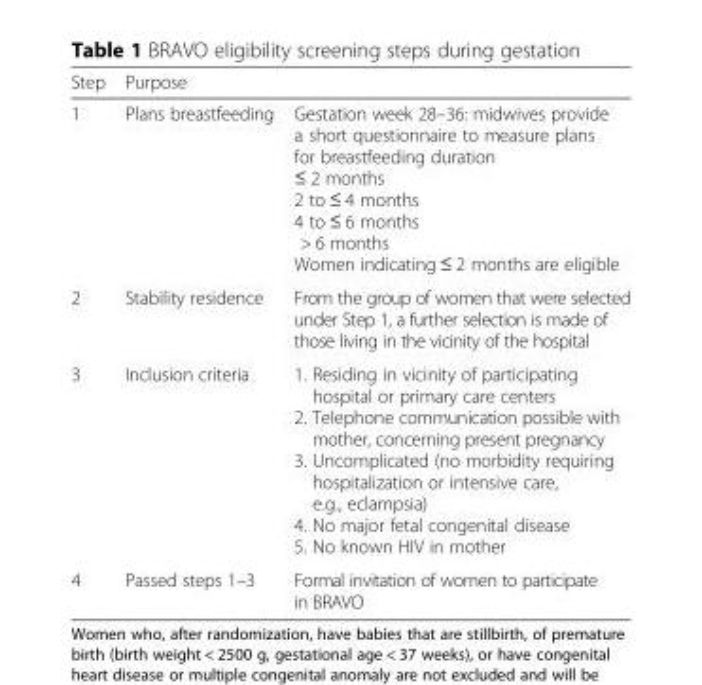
<table><thead><tr><td>Step</td><td>Purpose</td><td></td></tr></thead><tbody><tr><td>1</td><td>Plans breastfeeding</td><td>Gestation week 28–36: midwives provide a short questionnaire to measure plans for breastfeeding duration ≤ 2 months 2 to ≤ 4 months 4 to ≤ 6 months &gt; 6 months Women indicating ≤ 2 months are eligible</td></tr><tr><td>2</td><td>Stability residence</td><td>From the group of women that were selected under Step 1, a further selection is made of those living in the vicinity of the hospital</td></tr><tr><td>3</td><td>Inclusion criteria</td><td>1. Residing in vicinity of participating hospital or primary care centers 2. Telephone communication possible with mother, concerning present pregnancy 3. Uncomplicated (no morbidity requiring hospitalization or intensive care, e.g., eclampsia) 4. No major fetal congenital disease 5. No known HIV in mother</td></tr><tr><td>4</td><td>Passed steps 1–3</td><td>Formal invitation of women to participate in BRAVO</td></tr></tbody></table>